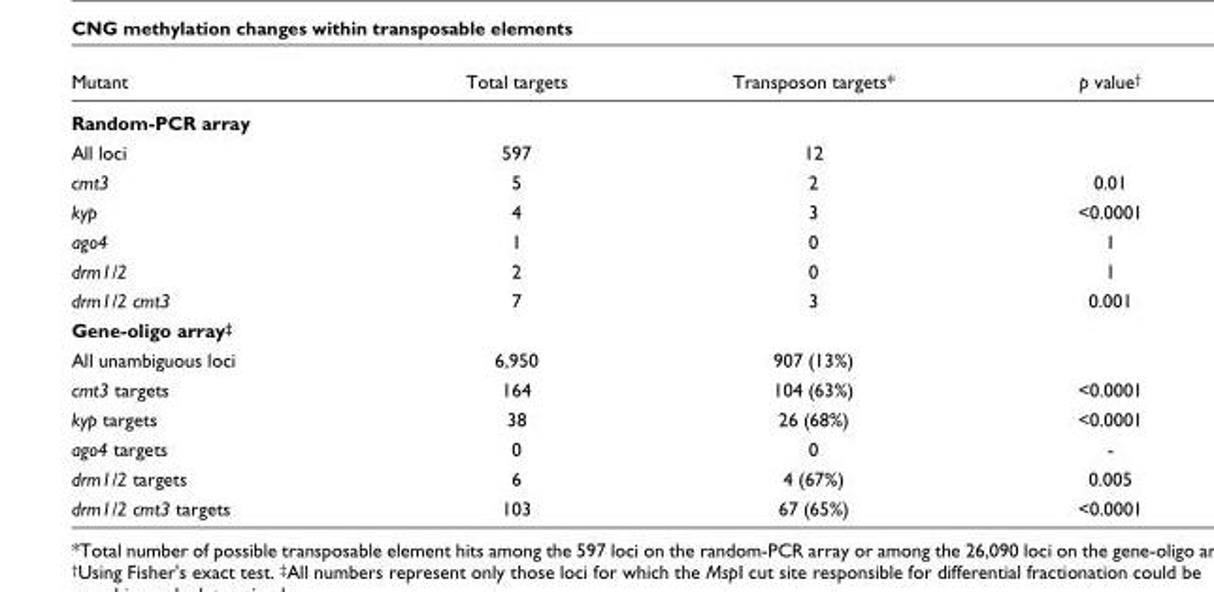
<table><thead><tr><td>Mutant</td><td>Total targets</td><td>Transposon targets*</td><td>p value†</td></tr></thead><tbody><tr><td colspan="4">Random-PCR array</td></tr><tr><td>All loci</td><td>597</td><td>12</td><td></td></tr><tr><td>cmt3</td><td>5</td><td>2</td><td>0.01</td></tr><tr><td>kyp</td><td>4</td><td>3</td><td>&lt;0.0001</td></tr><tr><td>ago4</td><td>1</td><td>0</td><td>1</td></tr><tr><td>drm1/2</td><td>2</td><td>0</td><td>1</td></tr><tr><td>drm1/2 cmt3</td><td>7</td><td>3</td><td>0.001</td></tr><tr><td colspan="4">Gene-oligo array‡</td></tr><tr><td>All unambiguous loci</td><td>6,950</td><td>907 (13%)</td><td></td></tr><tr><td>cmt3 targets</td><td>164</td><td>104 (63%)</td><td>&lt;0.0001</td></tr><tr><td>kyp targets</td><td>38</td><td>26 (68%)</td><td>&lt;0.0001</td></tr><tr><td>ago4 targets</td><td>0</td><td>0</td><td>-</td></tr><tr><td>drm1/2 targets</td><td>6</td><td>4 (67%)</td><td>0.005</td></tr><tr><td>drm1/2 cmt3 targets</td><td>103</td><td>67 (65%)</td><td>&lt;0.0001</td></tr></tbody></table>